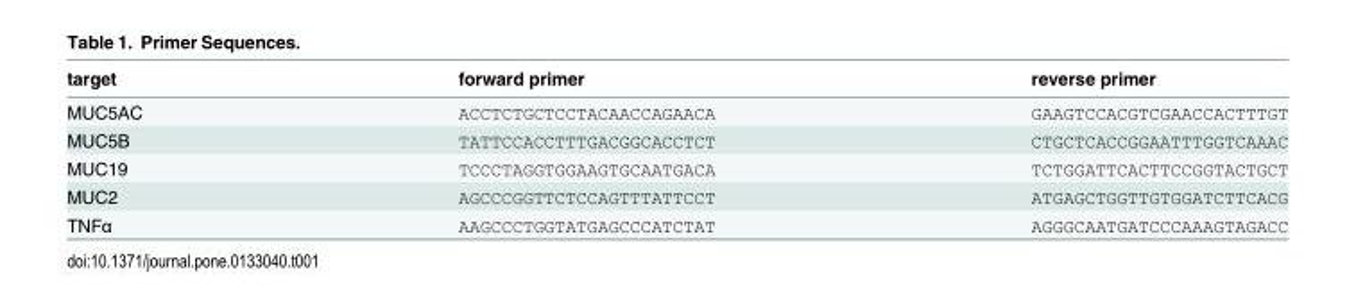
<table><thead><tr><td>target</td><td>forward primer</td><td>reverse primer</td></tr></thead><tbody><tr><td>MUC5AC</td><td>ACCTCTGCTCCTACAACCAGAACA</td><td>GAAGTCCACGTCGAACCACTTTGT</td></tr><tr><td>MUC5B</td><td>TATTCCACCTTTGACGGCACCTCT</td><td>CTGCTCACCGGAATTTGGTCAAAC</td></tr><tr><td>MUC19</td><td>TCCCTAGGTGGAAGTGCAATGACA</td><td>TCTGGATTCACTTCCGGTACTGCT</td></tr><tr><td>MUC2</td><td>AGCCCGGTTCTCCAGTTTATTCCT</td><td>ATGAGCTGGTTGTGGATCTTCACG</td></tr><tr><td>TNFα</td><td>AAGCCCTGGTATGAGCCCATCTAT</td><td>AGGGCAATGATCCCAAAGTAGACC</td></tr></tbody></table>